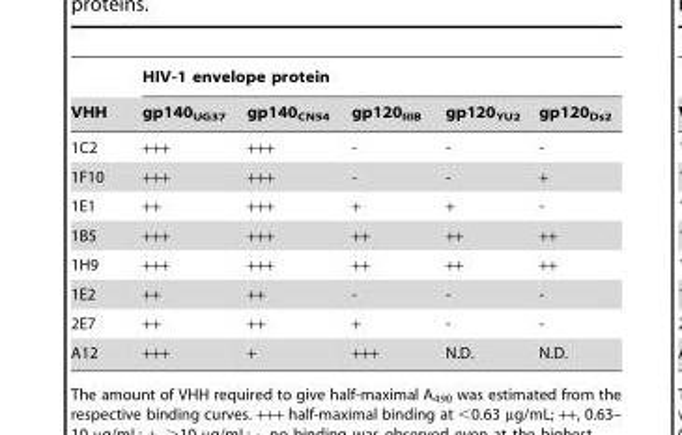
<table><thead><tr><td rowspan="2">VHH</td><td colspan="5">HIV-1 envelope protein</td></tr><tr><td>gp140<sub>UG37</sub></td><td>gp140<sub>CN54</sub></td><td>gp120<sub>IIIB</sub></td><td>gp120<sub>YU2</sub></td><td>gp120<sub>Ds2</sub></td></tr></thead><tbody><tr><td>1C2</td><td>+++</td><td>+++</td><td>-</td><td>-</td><td>-</td></tr><tr><td>1F10</td><td>+++</td><td>+++</td><td>-</td><td>-</td><td>+</td></tr><tr><td>1E1</td><td>++</td><td>+++</td><td>+</td><td>+</td><td>-</td></tr><tr><td>1B5</td><td>+++</td><td>+++</td><td>++</td><td>++</td><td>++</td></tr><tr><td>1H9</td><td>+++</td><td>+++</td><td>++</td><td>++</td><td>++</td></tr><tr><td>1E2</td><td>++</td><td>++</td><td>-</td><td>-</td><td>-</td></tr><tr><td>2E7</td><td>++</td><td>++</td><td>+</td><td>-</td><td>-</td></tr><tr><td>A12</td><td>+++</td><td>+</td><td>+++</td><td>N.D.</td><td>N.D.</td></tr></tbody></table>